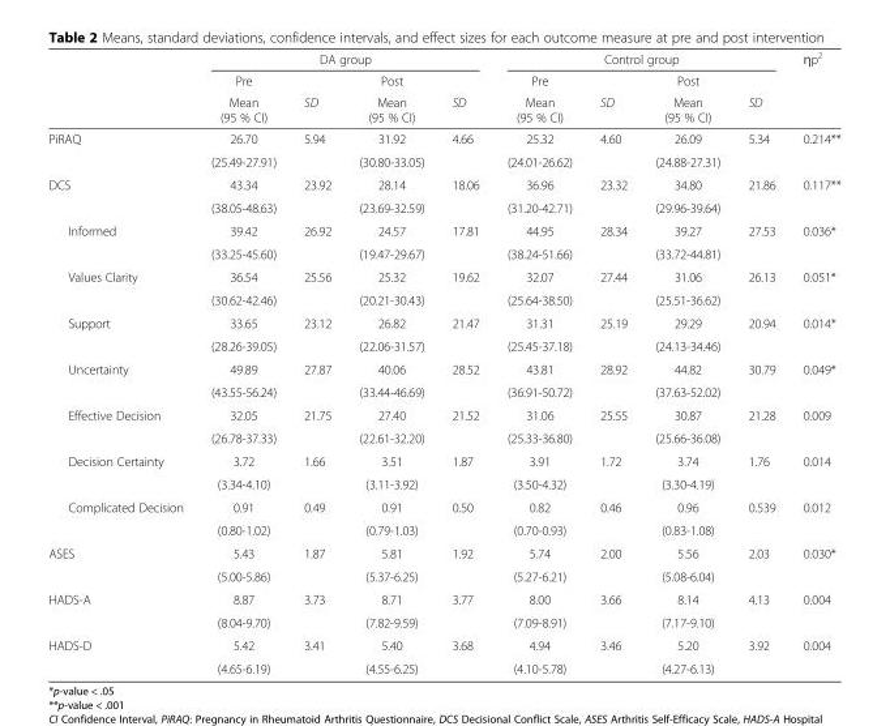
<table><thead><tr><td rowspan="3"></td><td colspan="4">DA group</td><td colspan="4">Control group</td><td rowspan="3">ƞp<sup>2</sup></td></tr><tr><td rowspan="2">Pre Mean (95 % CI)</td><td rowspan="2">SD</td><td rowspan="2">Post Mean (95 % CI)</td><td rowspan="2">SD</td><td rowspan="2">Pre Mean (95 % CI)</td><td rowspan="2">SD</td><td rowspan="2">Post Mean (95 % CI)</td><td rowspan="2">SD</td></tr><tr></tr></thead><tbody><tr><td rowspan="2">PiRAQ</td><td>26.70</td><td>5.94</td><td>31.92</td><td>4.66</td><td>25.32</td><td>4.60</td><td>26.09</td><td rowspan="2">5.34</td><td rowspan="2">0.214**</td></tr><tr><td>(25.49-27.91)</td><td></td><td>(30.80-33.05)</td><td></td><td>(24.01-26.62)</td><td></td><td>(24.88-27.31)</td></tr><tr><td rowspan="2">DCS</td><td>43.34</td><td>23.92</td><td>28.14</td><td>18.06</td><td>36.96</td><td>23.32</td><td>34.80</td><td rowspan="2">21.86</td><td rowspan="2">0.117**</td></tr><tr><td>(38.05-48.63)</td><td></td><td>(23.69-32.59)</td><td></td><td>(31.20-42.71)</td><td></td><td>(29.96-39.64)</td></tr><tr><td rowspan="2">Informed</td><td>39.42</td><td>26.92</td><td>24.57</td><td>17.81</td><td>44.95</td><td>28.34</td><td>39.27</td><td rowspan="2">27.53</td><td rowspan="2">0.036*</td></tr><tr><td>(33.25-45.60)</td><td></td><td>(19.47-29.67)</td><td></td><td>(38.24-51.66)</td><td></td><td>(33.72-44.81)</td></tr><tr><td rowspan="2">Values Clarity</td><td>36.54</td><td>25.56</td><td>25.32</td><td>19.62</td><td>32.07</td><td>27.44</td><td>31.06</td><td rowspan="2">26.13</td><td rowspan="2">0.051*</td></tr><tr><td>(30.62-42.46)</td><td></td><td>(20.21-30.43)</td><td></td><td>(25.64-38.50)</td><td></td><td>(25.51-36.62)</td></tr><tr><td rowspan="2">Support</td><td>33.65</td><td>23.12</td><td>26.82</td><td>21.47</td><td>31.31</td><td>25.19</td><td>29.29</td><td rowspan="2">20.94</td><td rowspan="2">0.014*</td></tr><tr><td>(28.26-39.05)</td><td></td><td>(22.06-31.57)</td><td></td><td>(25.45-37.18)</td><td></td><td>(24.13-34.46)</td></tr><tr><td rowspan="2">Uncertainty</td><td>49.89</td><td>27.87</td><td>40.06</td><td>28.52</td><td>43.81</td><td>28.92</td><td>44.82</td><td rowspan="2">30.79</td><td rowspan="2">0.049*</td></tr><tr><td>(43.55-56.24)</td><td></td><td>(33.44-46.69)</td><td></td><td>(36.91-50.72)</td><td></td><td>(37.63-52.02)</td></tr><tr><td rowspan="2">Effective Decision</td><td>32.05</td><td>21.75</td><td>27.40</td><td>21.52</td><td>31.06</td><td>25.55</td><td>30.87</td><td rowspan="2">21.28</td><td rowspan="2">0.009</td></tr><tr><td>(26.78-37.33)</td><td></td><td>(22.61-32.20)</td><td></td><td>(25.33-36.80)</td><td></td><td>(25.66-36.08)</td></tr><tr><td rowspan="2">Decision Certainty</td><td>3.72</td><td>1.66</td><td>3.51</td><td>1.87</td><td>3.91</td><td>1.72</td><td>3.74</td><td rowspan="2">1.76</td><td rowspan="2">0.014</td></tr><tr><td>(3.34-4.10)</td><td></td><td>(3.11-3.92)</td><td></td><td>(3.50-4.32)</td><td></td><td>(3.30-4.19)</td></tr><tr><td rowspan="2">Complicated Decision</td><td>0.91</td><td>0.49</td><td>0.91</td><td>0.50</td><td>0.82</td><td>0.46</td><td>0.96</td><td rowspan="2">0.539</td><td rowspan="2">0.012</td></tr><tr><td>(0.80-1.02)</td><td></td><td>(0.79-1.03)</td><td></td><td>(0.70-0.93)</td><td></td><td>(0.83-1.08)</td></tr><tr><td rowspan="2">ASES</td><td>5.43</td><td>1.87</td><td>5.81</td><td>1.92</td><td>5.74</td><td>2.00</td><td>5.56</td><td rowspan="2">2.03</td><td rowspan="2">0.030*</td></tr><tr><td>(5.00-5.86)</td><td></td><td>(5.37-6.25)</td><td></td><td>(5.27-6.21)</td><td></td><td>(5.08-6.04)</td></tr><tr><td rowspan="2">HADS-A</td><td>8.87</td><td>3.73</td><td>8.71</td><td>3.77</td><td>8.00</td><td>3.66</td><td>8.14</td><td rowspan="2">4.13</td><td rowspan="2">0.004</td></tr><tr><td>(8.04-9.70)</td><td></td><td>(7.82-9.59)</td><td></td><td>(7.09-8.91)</td><td></td><td>(7.17-9.10)</td></tr><tr><td rowspan="2">HADS-D</td><td>5.42</td><td>3.41</td><td>5.40</td><td>3.68</td><td>4.94</td><td>3.46</td><td>5.20</td><td rowspan="2">3.92</td><td rowspan="2">0.004</td></tr><tr><td>(4.65-6.19)</td><td></td><td>(4.55-6.25)</td><td></td><td>(4.10-5.78)</td><td></td><td>(4.27-6.13)</td></tr></tbody></table>